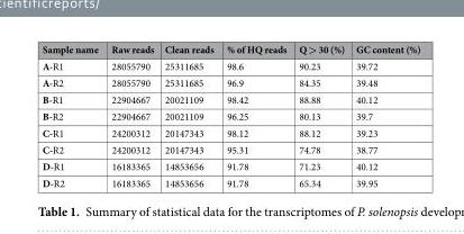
<table><thead><tr><td>Sample name</td><td>Raw reads</td><td>Clean reads</td><td>% of HQ reads</td><td>Q &gt; 30 (%)</td><td>GC content (%)</td></tr></thead><tbody><tr><td>A-R1</td><td>28055790</td><td>25311685</td><td>98.6</td><td>90.23</td><td>39.72</td></tr><tr><td>A-R2</td><td>28055790</td><td>25311685</td><td>96.9</td><td>84.35</td><td>39.48</td></tr><tr><td>B-R1</td><td>22904667</td><td>20021109</td><td>98.42</td><td>88.88</td><td>40.12</td></tr><tr><td>B-R2</td><td>22904667</td><td>20021109</td><td>96.25</td><td>80.13</td><td>39.7</td></tr><tr><td>C-R1</td><td>24200312</td><td>20147343</td><td>98.12</td><td>88.12</td><td>39.23</td></tr><tr><td>C-R2</td><td>24200312</td><td>20147343</td><td>95.31</td><td>74.78</td><td>38.77</td></tr><tr><td>D-R1</td><td>16183365</td><td>14853656</td><td>91.78</td><td>71.23</td><td>40.12</td></tr><tr><td>D-R2</td><td>16183365</td><td>14853656</td><td>91.78</td><td>65.34</td><td>39.95</td></tr></tbody></table>